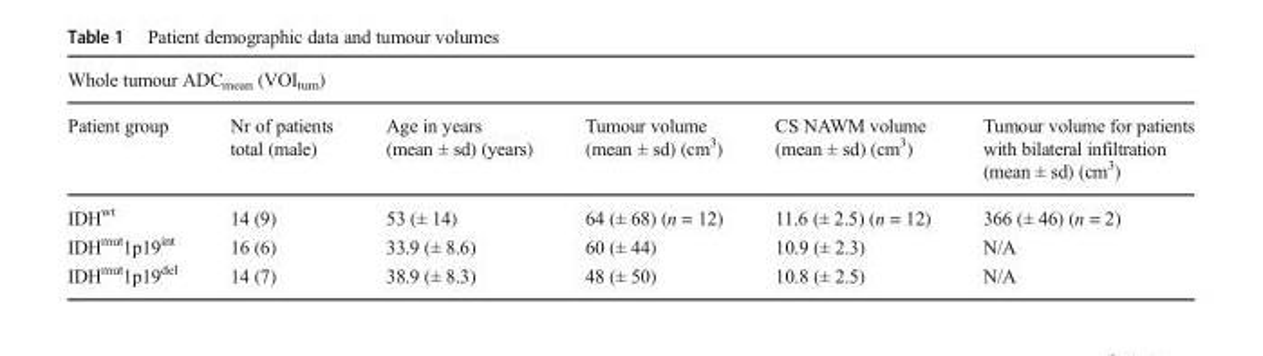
<table><thead><tr><td colspan="6">Whole tumour ADC<sub>mean</sub> (VOI<sub>tum</sub>)</td></tr><tr><td>Patient group</td><td>Nr of patients total (male)</td><td>Age in years (mean ± sd) (years)</td><td>Tumour volume (mean ± sd) (cm<sup>3</sup>)</td><td>CS NAWM volume (mean ± sd) (cm<sup>3</sup>)</td><td>Tumour volume for patients with bilateral infiltration (mean ± sd) (cm<sup>3</sup>)</td></tr></thead><tbody><tr><td>IDH<sup>wt</sup></td><td>14 (9)</td><td>53 (± 14)</td><td>64 (± 68) (n = 12)</td><td>11.6 (± 2.5) (n = 12)</td><td>366 (± 46) (n = 2)</td></tr><tr><td>IDH<sup>mut</sup>1p19<sup>int</sup></td><td>16 (6)</td><td>33.9 (± 8.6)</td><td>60 (± 44)</td><td>10.9 (± 2.3)</td><td>N/A</td></tr><tr><td>IDH<sup>mut</sup>1p19<sup>del</sup></td><td>14 (7)</td><td>38.9 (± 8.3)</td><td>48 (± 50)</td><td>10.8 (± 2.5)</td><td>N/A</td></tr></tbody></table>